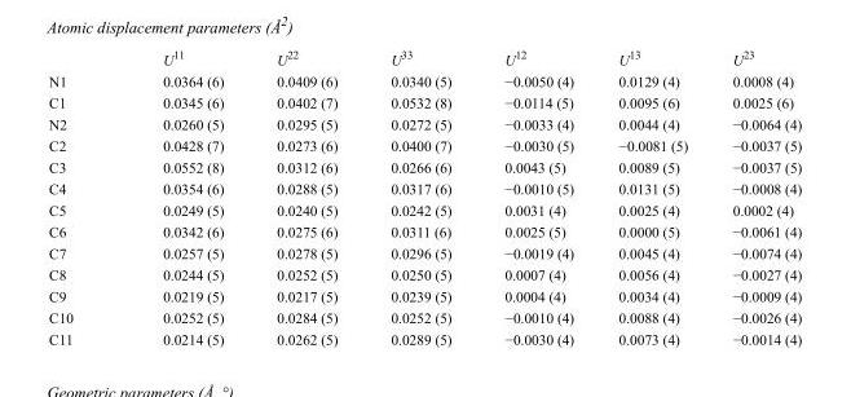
<table><thead><tr><td></td><td>U<sup>11</sup></td><td>U<sup>22</sup></td><td>U<sup>33</sup></td><td>U<sup>12</sup></td><td>U<sup>13</sup></td><td>U<sup>23</sup></td></tr></thead><tbody><tr><td>N1</td><td>0.0364 (6)</td><td>0.0409 (6)</td><td>0.0340 (5)</td><td>−0.0050 (4)</td><td>0.0129 (4)</td><td>0.0008 (4)</td></tr><tr><td>C1</td><td>0.0345 (6)</td><td>0.0402 (7)</td><td>0.0532 (8)</td><td>−0.0114 (5)</td><td>0.0095 (6)</td><td>0.0025 (6)</td></tr><tr><td>N2</td><td>0.0260 (5)</td><td>0.0295 (5)</td><td>0.0272 (5)</td><td>−0.0033 (4)</td><td>0.0044 (4)</td><td>−0.0064 (4)</td></tr><tr><td>C2</td><td>0.0428 (7)</td><td>0.0273 (6)</td><td>0.0400 (7)</td><td>−0.0030 (5)</td><td>−0.0081 (5)</td><td>−0.0037 (5)</td></tr><tr><td>C3</td><td>0.0552 (8)</td><td>0.0312 (6)</td><td>0.0266 (6)</td><td>0.0043 (5)</td><td>0.0089 (5)</td><td>−0.0037 (5)</td></tr><tr><td>C4</td><td>0.0354 (6)</td><td>0.0288 (5)</td><td>0.0317 (6)</td><td>−0.0010 (5)</td><td>0.0131 (5)</td><td>−0.0008 (4)</td></tr><tr><td>C5</td><td>0.0249 (5)</td><td>0.0240 (5)</td><td>0.0242 (5)</td><td>0.0031 (4)</td><td>0.0025 (4)</td><td>0.0002 (4)</td></tr><tr><td>C6</td><td>0.0342 (6)</td><td>0.0275 (6)</td><td>0.0311 (6)</td><td>0.0025 (5)</td><td>0.0000 (5)</td><td>−0.0061 (4)</td></tr><tr><td>C7</td><td>0.0257 (5)</td><td>0.0278 (5)</td><td>0.0296 (5)</td><td>−0.0019 (4)</td><td>0.0045 (4)</td><td>−0.0074 (4)</td></tr><tr><td>C8</td><td>0.0244 (5)</td><td>0.0252 (5)</td><td>0.0250 (5)</td><td>0.0007 (4)</td><td>0.0056 (4)</td><td>−0.0027 (4)</td></tr><tr><td>C9</td><td>0.0219 (5)</td><td>0.0217 (5)</td><td>0.0239 (5)</td><td>0.0004 (4)</td><td>0.0034 (4)</td><td>−0.0009 (4)</td></tr><tr><td>C10</td><td>0.0252 (5)</td><td>0.0284 (5)</td><td>0.0252 (5)</td><td>−0.0010 (4)</td><td>0.0088 (4)</td><td>−0.0026 (4)</td></tr><tr><td>C11</td><td>0.0214 (5)</td><td>0.0262 (5)</td><td>0.0289 (5)</td><td>−0.0030 (4)</td><td>0.0073 (4)</td><td>−0.0014 (4)</td></tr></tbody></table>